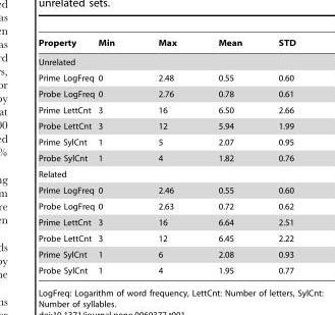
<table><thead><tr><td>Property</td><td>Min</td><td>Max</td><td>Mean</td><td>STD</td></tr></thead><tbody><tr><td colspan="5">Unrelated</td></tr><tr><td>Prime LogFreq</td><td>0</td><td>2.48</td><td>0.55</td><td>0.60</td></tr><tr><td>Probe LogFreq</td><td>0</td><td>2.76</td><td>0.78</td><td>0.61</td></tr><tr><td>Prime LettCnt</td><td>3</td><td>16</td><td>6.50</td><td>2.66</td></tr><tr><td>Probe LettCnt</td><td>3</td><td>12</td><td>5.94</td><td>1.99</td></tr><tr><td>Prime SylCnt</td><td>1</td><td>5</td><td>2.07</td><td>0.95</td></tr><tr><td>Probe SylCnt</td><td>1</td><td>4</td><td>1.82</td><td>0.76</td></tr><tr><td colspan="5">Related</td></tr><tr><td>Prime LogFreq</td><td>0</td><td>2.46</td><td>0.55</td><td>0.60</td></tr><tr><td>Probe LogFreq</td><td>0</td><td>2.63</td><td>0.72</td><td>0.62</td></tr><tr><td>Prime LettCnt</td><td>3</td><td>16</td><td>6.64</td><td>2.51</td></tr><tr><td>Probe LettCnt</td><td>3</td><td>12</td><td>6.45</td><td>2.22</td></tr><tr><td>Prime SylCnt</td><td>1</td><td>6</td><td>2.08</td><td>0.93</td></tr><tr><td>Probe SylCnt</td><td>1</td><td>4</td><td>1.95</td><td>0.77</td></tr></tbody></table>